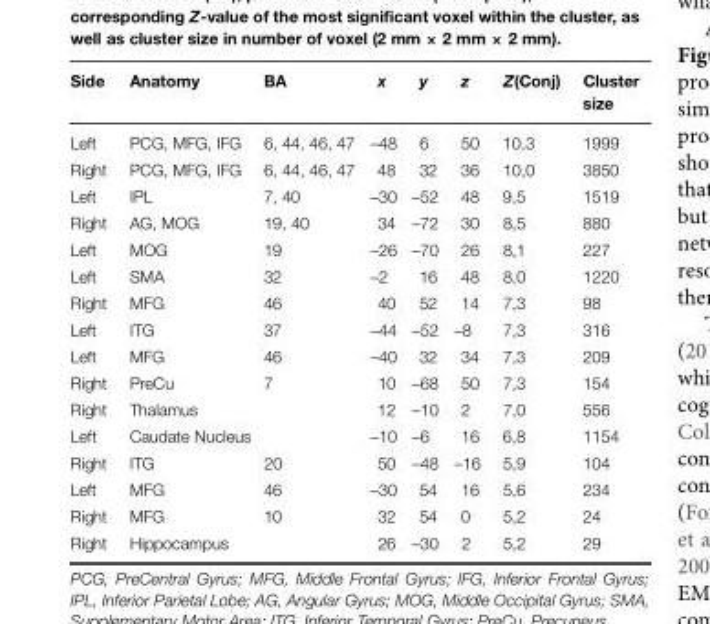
<table><thead><tr><td>Side</td><td>Anatomy</td><td>BA</td><td>x</td><td>y</td><td>z</td><td>Z(Conj)</td><td>Cluster size</td></tr></thead><tbody><tr><td>Left</td><td>PCG, MFG, IFG</td><td>6, 44, 46, 47</td><td>–48</td><td>6</td><td>50</td><td>10,3</td><td>1999</td></tr><tr><td>Right</td><td>PCG, MFG, IFG</td><td>6, 44, 46, 47</td><td>48</td><td>32</td><td>36</td><td>10,0</td><td>3850</td></tr><tr><td>Left</td><td>IPL</td><td>7, 40</td><td>–30</td><td>–52</td><td>48</td><td>9,5</td><td>1519</td></tr><tr><td>Right</td><td>AG, MOG</td><td>19, 40</td><td>34</td><td>–72</td><td>30</td><td>8,5</td><td>880</td></tr><tr><td>Left</td><td>MOG</td><td>19</td><td>–26</td><td>–70</td><td>26</td><td>8,1</td><td>227</td></tr><tr><td>Left</td><td>SMA</td><td>32</td><td>–2</td><td>16</td><td>48</td><td>8,0</td><td>1220</td></tr><tr><td>Right</td><td>MFG</td><td>46</td><td>40</td><td>52</td><td>14</td><td>7,3</td><td>98</td></tr><tr><td>Left</td><td>ITG</td><td>37</td><td>–44</td><td>–52</td><td>–8</td><td>7,3</td><td>316</td></tr><tr><td>Left</td><td>MFG</td><td>46</td><td>–40</td><td>32</td><td>34</td><td>7,3</td><td>209</td></tr><tr><td>Right</td><td>PreCu</td><td>7</td><td>10</td><td>–68</td><td>50</td><td>7,3</td><td>154</td></tr><tr><td>Right</td><td>Thalamus</td><td></td><td>12</td><td>–10</td><td>2</td><td>7,0</td><td>556</td></tr><tr><td>Left</td><td colspan="2">Caudate Nucleus</td><td>–10</td><td>–6</td><td>16</td><td>6,8</td><td>1154</td></tr><tr><td>Right</td><td>ITG</td><td>20</td><td>50</td><td>–48</td><td>–16</td><td>5,9</td><td>104</td></tr><tr><td>Left</td><td>MFG</td><td>46</td><td>–30</td><td>54</td><td>16</td><td>5,6</td><td>234</td></tr><tr><td>Right</td><td>MFG</td><td>10</td><td>32</td><td>54</td><td>0</td><td>5,2</td><td>24</td></tr><tr><td>Right</td><td>Hippocampus</td><td></td><td>26</td><td>–30</td><td>2</td><td>5,2</td><td>29</td></tr></tbody></table>